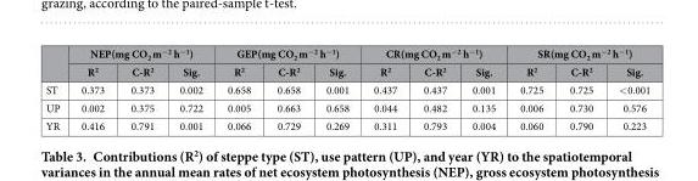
<table><thead><tr><td rowspan="2"></td><td colspan="3">NEP(mg CO<sub>2</sub> m<sup>−2</sup> h<sup>−1</sup>)</td><td colspan="3">GEP(mg CO<sub>2</sub> m<sup>−2</sup> h<sup>−1</sup>)</td><td colspan="3">CR(mg CO<sub>2</sub> m<sup>−2</sup> h<sup>−1</sup>)</td><td colspan="3">SR(mg CO<sub>2</sub> m<sup>−2</sup> h<sup>−1</sup>)</td></tr><tr><td>R<sup>2</sup></td><td>C-R<sup>2</sup></td><td>Sig.</td><td>R<sup>2</sup></td><td>C-R<sup>2</sup></td><td>Sig.</td><td>R<sup>2</sup></td><td>C-R<sup>2</sup></td><td>Sig.</td><td>R<sup>2</sup></td><td>C-R<sup>2</sup></td><td>Sig.</td></tr></thead><tbody><tr><td>ST</td><td>0.373</td><td>0.373</td><td>0.002</td><td>0.658</td><td>0.658</td><td>0.001</td><td>0.437</td><td>0.437</td><td>0.001</td><td>0.725</td><td>0.725</td><td>&lt; 0.001</td></tr><tr><td>UP</td><td>0.002</td><td>0.375</td><td>0.722</td><td>0.005</td><td>0.663</td><td>0.658</td><td>0.044</td><td>0.482</td><td>0.135</td><td>0.006</td><td>0.730</td><td>0.576</td></tr><tr><td>YR</td><td>0.416</td><td>0.791</td><td>0.001</td><td>0.066</td><td>0.729</td><td>0.269</td><td>0.311</td><td>0.793</td><td>0.004</td><td>0.060</td><td>0.790</td><td>0.223</td></tr></tbody></table>